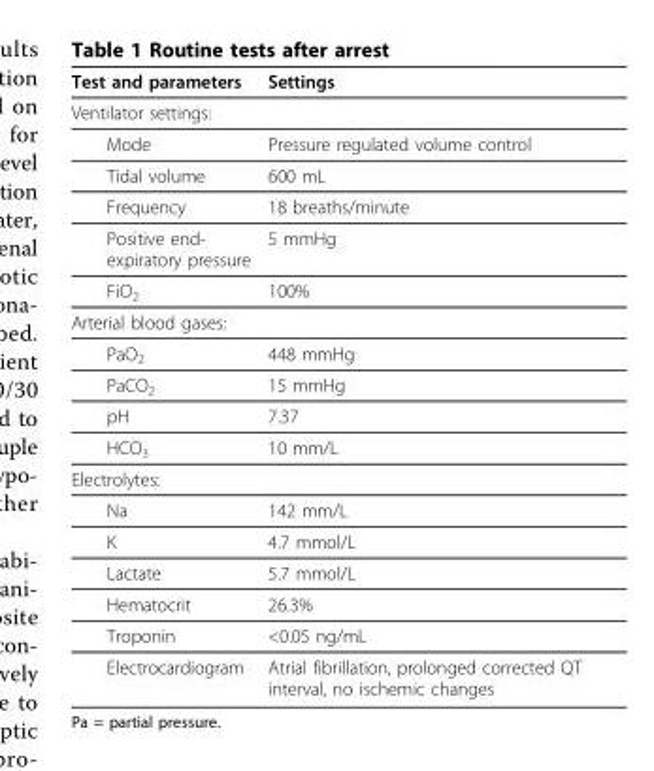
<table><thead><tr><td>Test and parameters</td><td>Settings</td></tr></thead><tbody><tr><td colspan="2">Ventilator settings:</td></tr><tr><td>Mode</td><td>Pressure regulated volume control</td></tr><tr><td>Tidal volume</td><td>600 mL</td></tr><tr><td>Frequency</td><td>18 breaths/minute</td></tr><tr><td>Positive end- expiratory pressure</td><td>5 mmHg</td></tr><tr><td>FiO<sub>2</sub></td><td>100%</td></tr><tr><td colspan="2">Arterial blood gases:</td></tr><tr><td>PaO<sub>2</sub></td><td>448 mmHg</td></tr><tr><td>PaCO<sub>2</sub></td><td>15 mmHg</td></tr><tr><td>pH</td><td>7.37</td></tr><tr><td>HCO<sub>3</sub></td><td>10 mm/L</td></tr><tr><td colspan="2">Electrolytes:</td></tr><tr><td>Na</td><td>142 mm/L</td></tr><tr><td>K</td><td>4.7 mmol/L</td></tr><tr><td>Lactate</td><td>5.7 mmol/L</td></tr><tr><td>Hematocrit</td><td>26.3%</td></tr><tr><td>Troponin</td><td>&lt;0.05 ng/mL</td></tr><tr><td>Electrocardiogram</td><td>Atrial fibrillation, prolonged corrected QT interval, no ischemic changes</td></tr></tbody></table>